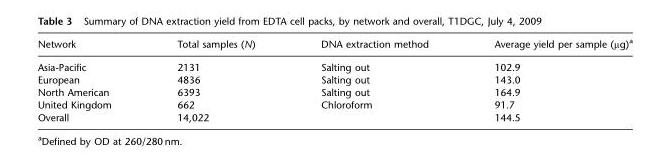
<table><thead><tr><td>Network</td><td>Total samples (N)</td><td>DNA extraction method</td><td>Average yield per sample (µg)<sup>a</sup></td></tr></thead><tbody><tr><td>Asia-Pacific</td><td>2131</td><td>Salting out</td><td>102.9</td></tr><tr><td>European</td><td>4836</td><td>Salting out</td><td>143.0</td></tr><tr><td>North American</td><td>6393</td><td>Salting out</td><td>164.9</td></tr><tr><td>United Kingdom</td><td>662</td><td>Chloroform</td><td>91.7</td></tr><tr><td>Overall</td><td>14,022</td><td></td><td>144.5</td></tr></tbody></table>